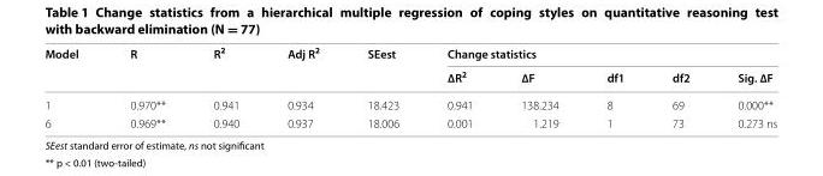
<table><thead><tr><td rowspan="2">Model</td><td rowspan="2">R</td><td rowspan="2">R<sup>2</sup></td><td rowspan="2">Adj R<sup>2</sup></td><td rowspan="2">SEest</td><td colspan="5">Change statistics</td></tr><tr><td>∆R<sup>2</sup></td><td>∆F</td><td>df1</td><td>df2</td><td>Sig. ∆F</td></tr></thead><tbody><tr><td>1</td><td>0.970**</td><td>0.941</td><td>0.934</td><td>18.423</td><td>0.941</td><td>138.234</td><td>8</td><td>69</td><td>0.000**</td></tr><tr><td>6</td><td>0.969**</td><td>0.940</td><td>0.937</td><td>18.006</td><td>0.001</td><td>1.219</td><td>1</td><td>73</td><td>0.273 ns</td></tr></tbody></table>